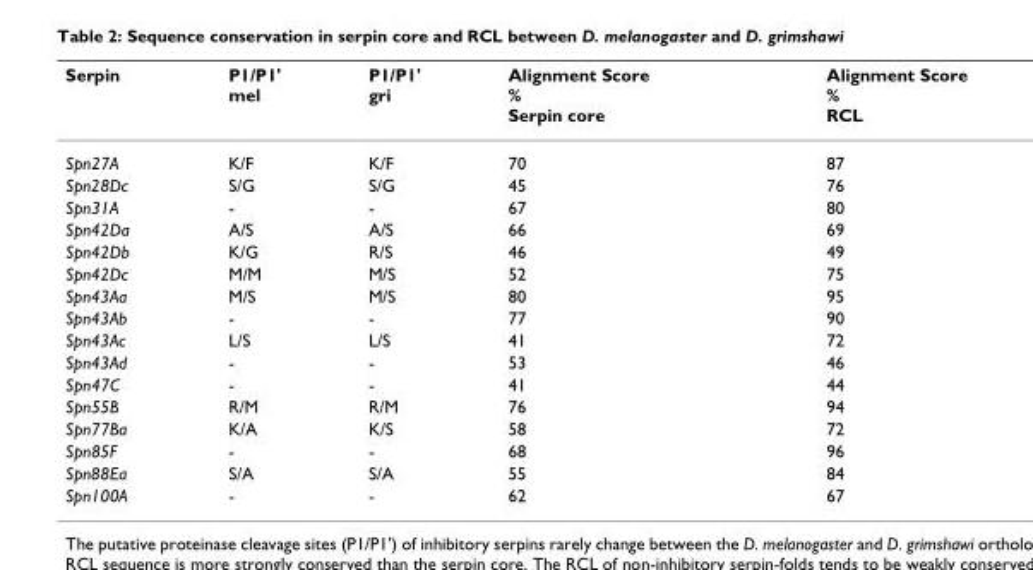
<table><thead><tr><td>Serpin</td><td>P1/P1&#x27; mel</td><td>P1/P1&#x27; gri</td><td>Alignment Score % Serpin core</td><td>Alignment Score % RCL</td></tr></thead><tbody><tr><td>Spn27A</td><td>K/F</td><td>K/F</td><td>70</td><td>87</td></tr><tr><td>Spn28Dc</td><td>S/G</td><td>S/G</td><td>45</td><td>76</td></tr><tr><td>Spn31A</td><td>-</td><td>-</td><td>67</td><td>80</td></tr><tr><td>Spn42Da</td><td>A/S</td><td>A/S</td><td>66</td><td>69</td></tr><tr><td>Spn42Db</td><td>K/G</td><td>R/S</td><td>46</td><td>49</td></tr><tr><td>Spn42Dc</td><td>M/M</td><td>M/S</td><td>52</td><td>75</td></tr><tr><td>Spn43Aa</td><td>M/S</td><td>M/S</td><td>80</td><td>95</td></tr><tr><td>Spn43Ab</td><td>-</td><td>-</td><td>77</td><td>90</td></tr><tr><td>Spn43Ac</td><td>L/S</td><td>L/S</td><td>41</td><td>72</td></tr><tr><td>Spn43Ad</td><td>-</td><td>-</td><td>53</td><td>46</td></tr><tr><td>Spn47C</td><td>-</td><td>-</td><td>41</td><td>44</td></tr><tr><td>Spn55B</td><td>R/M</td><td>R/M</td><td>76</td><td>94</td></tr><tr><td>Spn77Ba</td><td>K/A</td><td>K/S</td><td>58</td><td>72</td></tr><tr><td>Spn85F</td><td>-</td><td>-</td><td>68</td><td>96</td></tr><tr><td>Spn88Ea</td><td>S/A</td><td>S/A</td><td>55</td><td>84</td></tr><tr><td>Spn100A</td><td>-</td><td>-</td><td>62</td><td>67</td></tr></tbody></table>